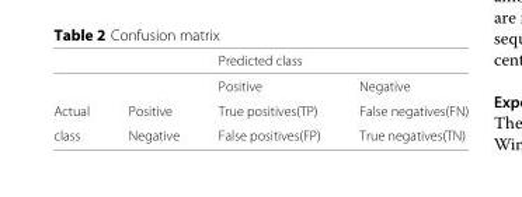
<table><thead><tr><td></td><td></td><td>Predicted class</td><td></td></tr></thead><tbody><tr><td></td><td></td><td>Positive</td><td>Negative</td></tr><tr><td>Actual</td><td>Positive</td><td>True positives(TP)</td><td>False negatives(FN)</td></tr><tr><td>class</td><td>Negative</td><td>False positives(FP)</td><td>True negatives(TN)</td></tr></tbody></table>